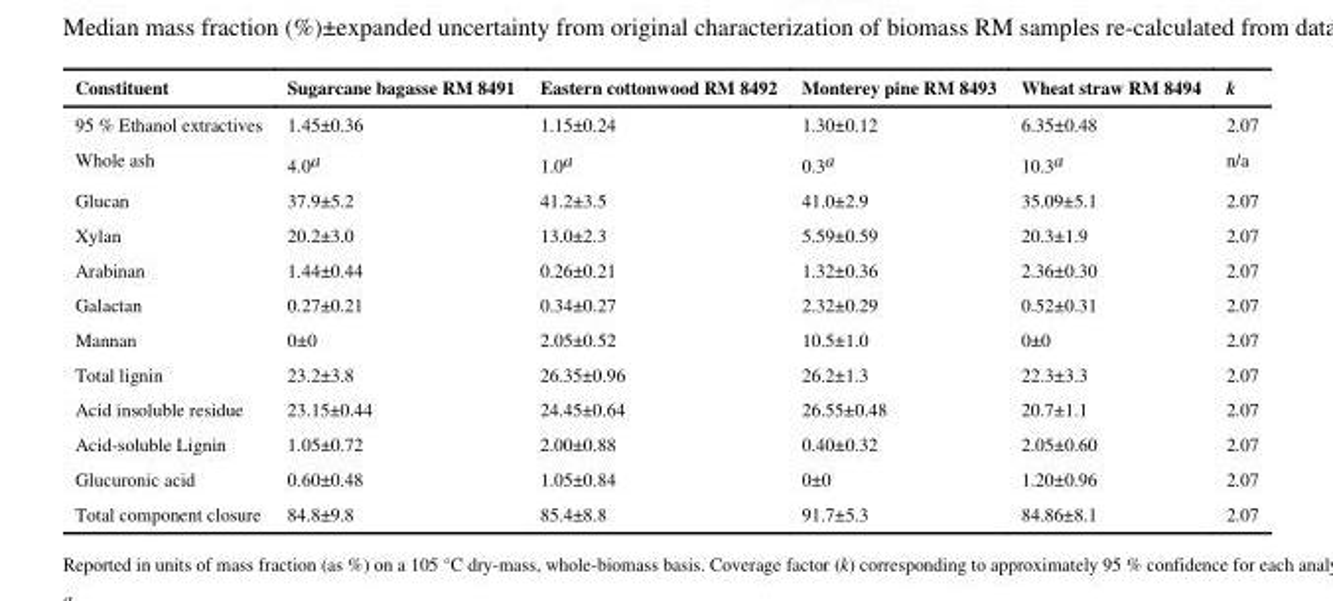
<table><thead><tr><td>Constituent</td><td>Sugarcane bagasse RM 8491</td><td>Eastern cottonwood RM 8492</td><td>Monterey pine RM 8493</td><td>Wheat straw RM 8494</td><td>k</td></tr></thead><tbody><tr><td>95 % Ethanol extractives</td><td>1.45±0.36</td><td>1.15±0.24</td><td>1.30±0.12</td><td>6.35±0.48</td><td>2.07</td></tr><tr><td>Whole ash</td><td>4.0<sup>a</sup></td><td>1.0<sup>a</sup></td><td>0.3<sup>a</sup></td><td>10.3<sup>a</sup></td><td>n/a</td></tr><tr><td>Glucan</td><td>37.9±5.2</td><td>41.2±3.5</td><td>41.0±2.9</td><td>35.09±5.1</td><td>2.07</td></tr><tr><td>Xylan</td><td>20.2±3.0</td><td>13.0±2.3</td><td>5.59±0.59</td><td>20.3±1.9</td><td>2.07</td></tr><tr><td>Arabinan</td><td>1.44±0.44</td><td>0.26±0.21</td><td>1.32±0.36</td><td>2.36±0.30</td><td>2.07</td></tr><tr><td>Galactan</td><td>0.27±0.21</td><td>0.34±0.27</td><td>2.32±0.29</td><td>0.52±0.31</td><td>2.07</td></tr><tr><td>Mannan</td><td>0±0</td><td>2.05±0.52</td><td>10.5±1.0</td><td>0±0</td><td>2.07</td></tr><tr><td>Total lignin</td><td>23.2±3.8</td><td>26.35±0.96</td><td>26.2±1.3</td><td>22.3±3.3</td><td>2.07</td></tr><tr><td>Acid insoluble residue</td><td>23.15±0.44</td><td>24.45±0.64</td><td>26.55±0.48</td><td>20.7±1.1</td><td>2.07</td></tr><tr><td>Acid-soluble Lignin</td><td>1.05±0.72</td><td>2.00±0.88</td><td>0.40±0.32</td><td>2.05±0.60</td><td>2.07</td></tr><tr><td>Glucuronic acid</td><td>0.60±0.48</td><td>1.05±0.84</td><td>0±0</td><td>1.20±0.96</td><td>2.07</td></tr><tr><td>Total component closure</td><td>84.8±9.8</td><td>85.4±8.8</td><td>91.7±5.3</td><td>84.86±8.1</td><td>2.07</td></tr></tbody></table>